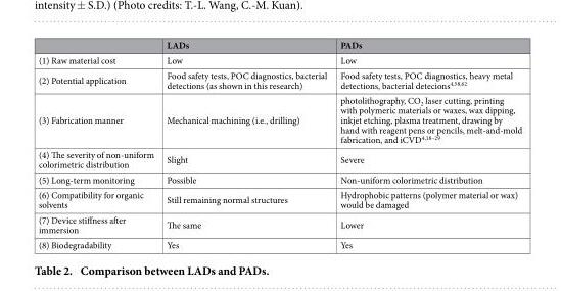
<table><thead><tr><td></td><td>LADs</td><td>PADs</td></tr></thead><tbody><tr><td>(1) Raw material cost</td><td>Low</td><td>Low</td></tr><tr><td>(2) Potential application</td><td>Food safety tests, POC diagnostics, bacterial detections (as shown in this research)</td><td>Food safety tests, POC diagnostics, heavy metal detections, bacterial detecions<sup>4</sup>,<sup>58</sup>,<sup>62</sup></td></tr><tr><td>(3) Fabrication manner</td><td>Mechanical machining (i.e., drilling)</td><td>photolithography, CO2 laser cutting, printing with polymeric materials or waxes, wax dipping, inkjet etching, plasma treatment, drawing by hand with reagent pens or pencils, melt-and-mold fabrication, and iCVD4,18–29</td></tr><tr><td>(4) The severity of non-uniform colorimetric distribution</td><td>Slight</td><td>Severe</td></tr><tr><td>(5) Long-term monitoring</td><td>Possible</td><td>Non-uniform colorimetric distribution</td></tr><tr><td>(6) Compatibility for organic solvents</td><td>Still remaining normal structures</td><td>Hydrophobic patterns (polymer material or wax) would be damaged</td></tr><tr><td>(7) Device stiffness after immersion</td><td>The same</td><td>Lower</td></tr><tr><td>(8) Biodegradability</td><td>Yes</td><td>Yes</td></tr></tbody></table>